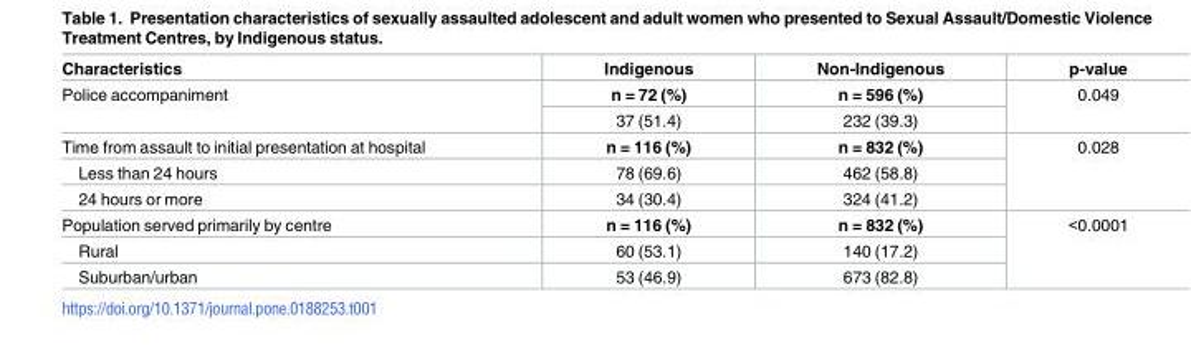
<table><thead><tr><td>Characteristics</td><td>Indigenous</td><td>Non-Indigenous</td><td>p-value</td></tr></thead><tbody><tr><td rowspan="2">Police accompaniment</td><td>n = 72 (%)</td><td>n = 596 (%)</td><td rowspan="2">0.049</td></tr><tr><td>37 (51.4)</td><td>232 (39.3)</td></tr><tr><td>Time from assault to initial presentation at hospital</td><td>n = 116 (%)</td><td>n = 832 (%)</td><td rowspan="3">0.028</td></tr><tr><td>Less than 24 hours</td><td>78 (69.6)</td><td>462 (58.8)</td></tr><tr><td>24 hours or more</td><td>34 (30.4)</td><td>324 (41.2)</td></tr><tr><td>Population served primarily by centre</td><td>n = 116 (%)</td><td>n = 832 (%)</td><td rowspan="3">&lt;0.0001</td></tr><tr><td>Rural</td><td>60 (53.1)</td><td>140 (17.2)</td></tr><tr><td>Suburban/urban</td><td>53 (46.9)</td><td>673 (82.8)</td></tr></tbody></table>